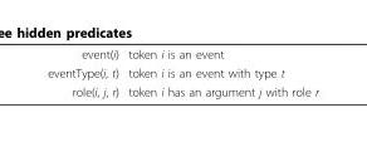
<table><tbody><tr><td>event(i)</td><td>token i is an event</td></tr><tr><td>eventType(i, t)</td><td>token i is an event with type t</td></tr><tr><td>role(i, j, r)</td><td>token i has an argument j with role r</td></tr></tbody></table>